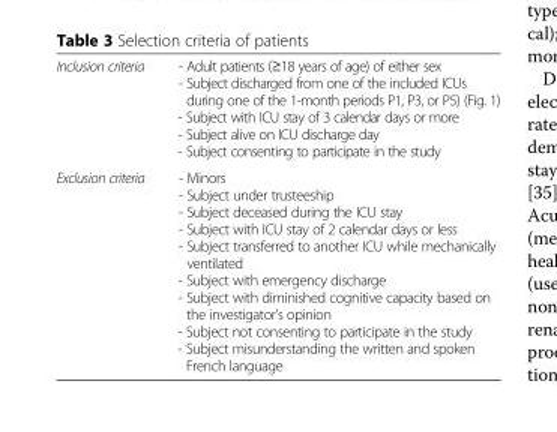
<table><tbody><tr><td>Inclusion criteria</td><td>- Adult patients (≥18 years of age) of either sex - Subject discharged from one of the included ICUs during one of the 1-month periods P1, P3, or P5) (Fig. 1) - Subject with ICU stay of 3 calendar days or more - Subject alive on ICU discharge day - Subject consenting to participate in the study</td></tr><tr><td>Exclusion criteria</td><td>- Minors - Subject under trusteeship - Subject deceased during the ICU stay - Subject with ICU stay of 2 calendar days or less - Subject transferred to another ICU while mechanically ventilated - Subject with emergency discharge - Subject with diminished cognitive capacity based on the investigator’s opinion - Subject not consenting to participate in the study - Subject misunderstanding the written and spoken French language</td></tr></tbody></table>